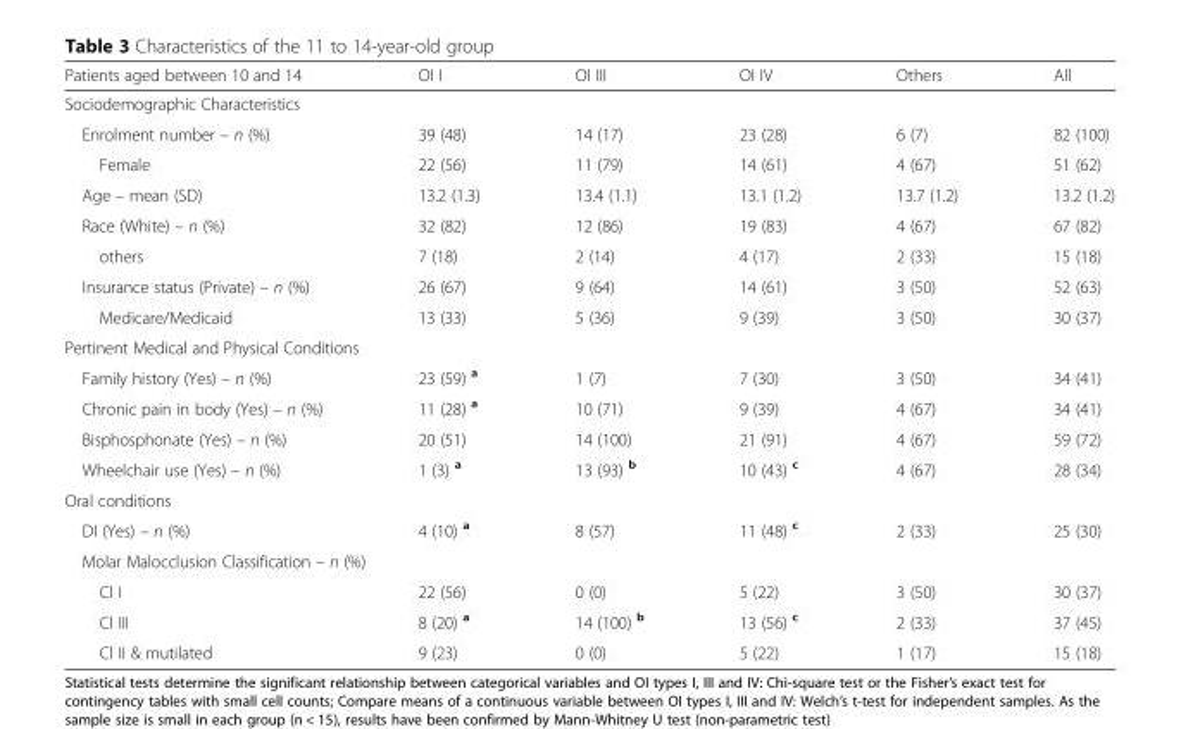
<table><thead><tr><td>Patients aged between 10 and 14</td><td>OI I</td><td>OI III</td><td>OI IV</td><td>Others</td><td>All</td></tr></thead><tbody><tr><td colspan="6">Sociodemographic Characteristics</td></tr><tr><td>Enrolment number – n (%)</td><td>39 (48)</td><td>14 (17)</td><td>23 (28)</td><td>6 (7)</td><td>82 (100)</td></tr><tr><td>Female</td><td>22 (56)</td><td>11 (79)</td><td>14 (61)</td><td>4 (67)</td><td>51 (62)</td></tr><tr><td>Age – mean (SD)</td><td>13.2 (1.3)</td><td>13.4 (1.1)</td><td>13.1 (1.2)</td><td>13.7 (1.2)</td><td>13.2 (1.2)</td></tr><tr><td>Race (White) – n (%)</td><td>32 (82)</td><td>12 (86)</td><td>19 (83)</td><td>4 (67)</td><td>67 (82)</td></tr><tr><td>others</td><td>7 (18)</td><td>2 (14)</td><td>4 (17)</td><td>2 (33)</td><td>15 (18)</td></tr><tr><td>Insurance status (Private) – n (%)</td><td>26 (67)</td><td>9 (64)</td><td>14 (61)</td><td>3 (50)</td><td>52 (63)</td></tr><tr><td>Medicare/Medicaid</td><td>13 (33)</td><td>5 (36)</td><td>9 (39)</td><td>3 (50)</td><td>30 (37)</td></tr><tr><td colspan="6">Pertinent Medical and Physical Conditions</td></tr><tr><td>Family history (Yes) – n (%)</td><td>23 (59) <sup>a</sup></td><td>1 (7)</td><td>7 (30)</td><td>3 (50)</td><td>34 (41)</td></tr><tr><td>Chronic pain in body (Yes) – n (%)</td><td>11 (28) <sup>a</sup></td><td>10 (71)</td><td>9 (39)</td><td>4 (67)</td><td>34 (41)</td></tr><tr><td>Bisphosphonate (Yes) – n (%)</td><td>20 (51)</td><td>14 (100)</td><td>21 (91)</td><td>4 (67)</td><td>59 (72)</td></tr><tr><td>Wheelchair use (Yes) – n (%)</td><td>1 (3) <sup>a</sup></td><td>13 (93) <sup>b</sup></td><td>10 (43) <sup>c</sup></td><td>4 (67)</td><td>28 (34)</td></tr><tr><td colspan="6">Oral conditions</td></tr><tr><td>DI (Yes) – n (%)</td><td>4 (10) <sup>a</sup></td><td>8 (57)</td><td>11 (48) <sup>c</sup></td><td>2 (33)</td><td>25 (30)</td></tr><tr><td colspan="6">Molar Malocclusion Classification – n (%)</td></tr><tr><td>Cl I</td><td>22 (56)</td><td>0 (0)</td><td>5 (22)</td><td>3 (50)</td><td>30 (37)</td></tr><tr><td>Cl III</td><td>8 (20) <sup>a</sup></td><td>14 (100) <sup>b</sup></td><td>13 (56) <sup>c</sup></td><td>2 (33)</td><td>37 (45)</td></tr><tr><td>Cl II &amp; mutilated</td><td>9 (23)</td><td>0 (0)</td><td>5 (22)</td><td>1 (17)</td><td>15 (18)</td></tr></tbody></table>